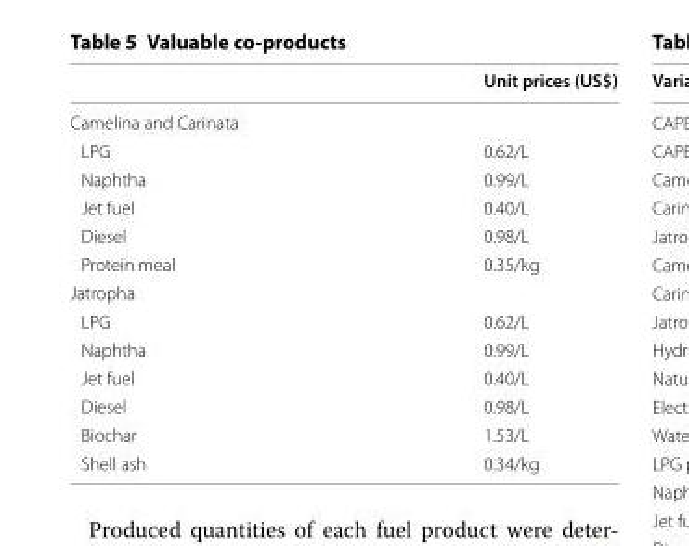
<table><thead><tr><td></td><td>Unit prices (US$)</td></tr></thead><tbody><tr><td colspan="2">Camelina and Carinata</td></tr><tr><td>LPG</td><td>0.62/L</td></tr><tr><td>Naphtha</td><td>0.99/L</td></tr><tr><td>Jet fuel</td><td>0.40/L</td></tr><tr><td>Diesel</td><td>0.98/L</td></tr><tr><td>Protein meal</td><td>0.35/kg</td></tr><tr><td colspan="2">Jatropha</td></tr><tr><td>LPG</td><td>0.62/L</td></tr><tr><td>Naphtha</td><td>0.99/L</td></tr><tr><td>Jet fuel</td><td>0.40/L</td></tr><tr><td>Diesel</td><td>0.98/L</td></tr><tr><td>Biochar</td><td>1.53/L</td></tr><tr><td>Shell ash</td><td>0.34/kg</td></tr></tbody></table>